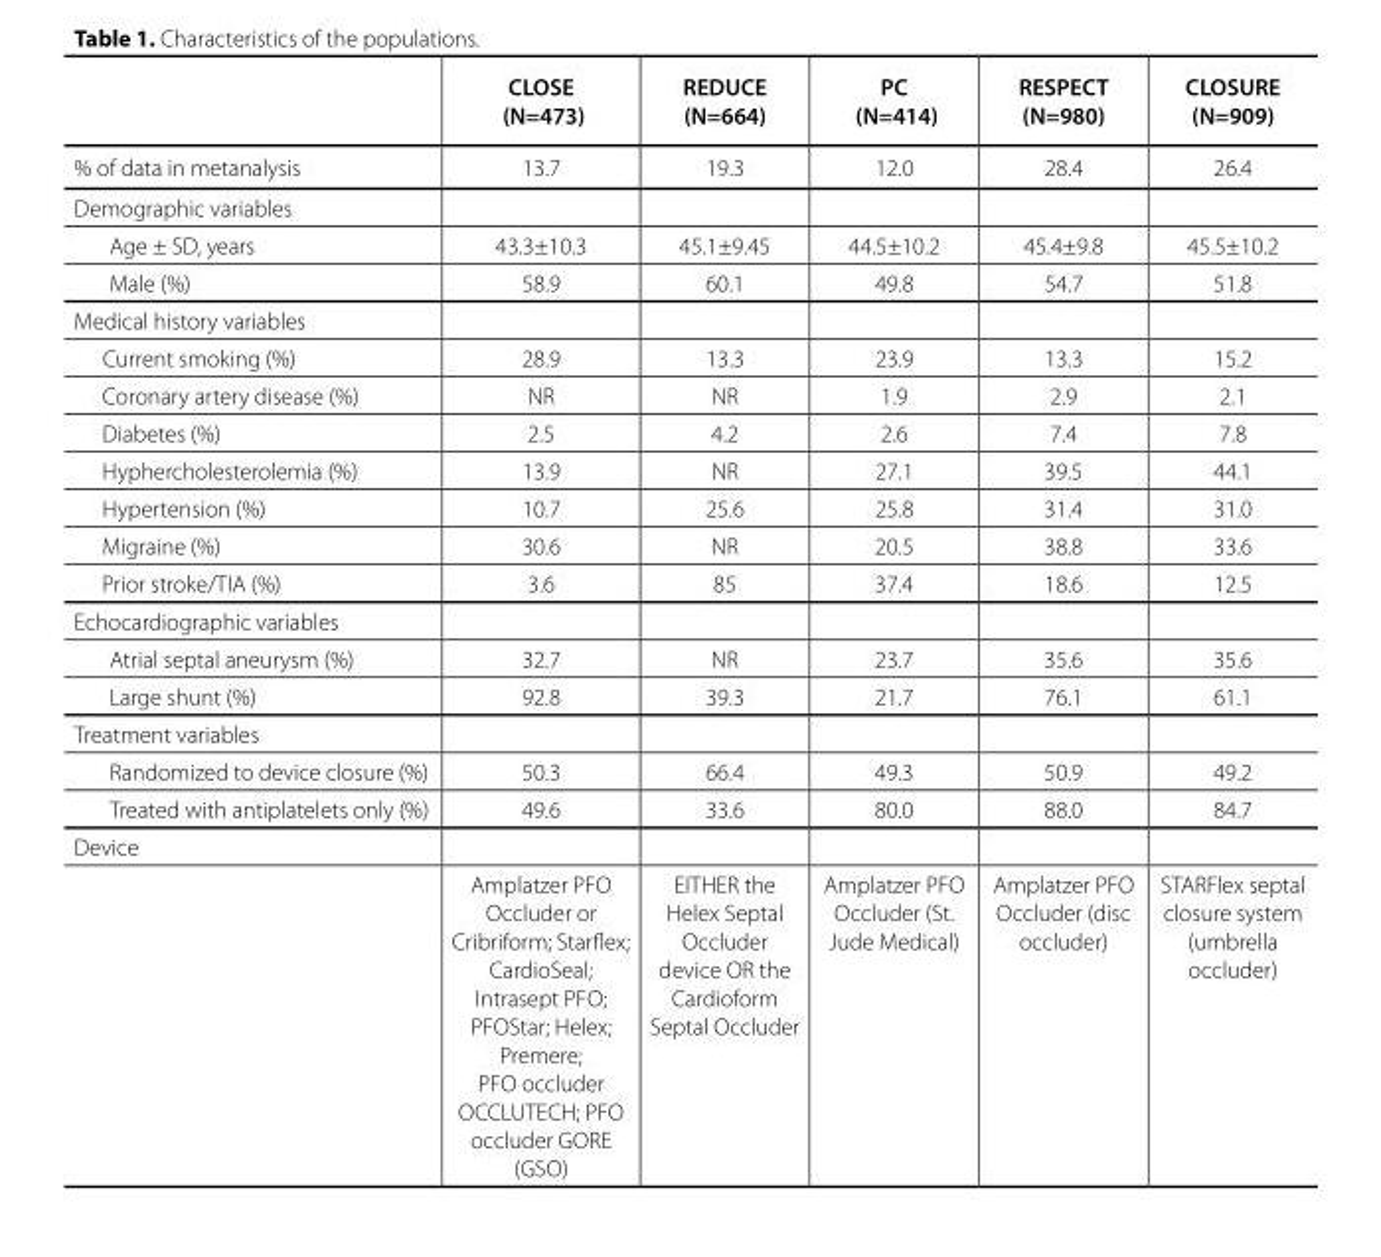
<table><thead><tr><td></td><td>CLOSE (N=473)</td><td>REDUCE (N=664)</td><td>PC (N=414)</td><td>RESPECT (N=980)</td><td>CLOSURE (N=909)</td></tr></thead><tbody><tr><td>% of data in metanalysis</td><td>13.7</td><td>19.3</td><td>12.0</td><td>28.4</td><td>26.4</td></tr><tr><td colspan="6">Demographic variables</td></tr><tr><td>Age ± SD, years</td><td>43.3±10.3</td><td>45.1±9.45</td><td>44.5±10.2</td><td>45.4±9.8</td><td>45.5±10.2</td></tr><tr><td>Male (%)</td><td>58.9</td><td>60.1</td><td>49.8</td><td>54.7</td><td>51.8</td></tr><tr><td colspan="6">Medical history variables</td></tr><tr><td>Current smoking (%)</td><td>28.9</td><td>13.3</td><td>23.9</td><td>13.3</td><td>15.2</td></tr><tr><td>Coronary artery disease (%)</td><td>NR</td><td>NR</td><td>1.9</td><td>2.9</td><td>2.1</td></tr><tr><td>Diabetes (%)</td><td>2.5</td><td>4.2</td><td>2.6</td><td>7.4</td><td>7.8</td></tr><tr><td>Hyphercholesterolemia (%)</td><td>13.9</td><td>NR</td><td>27.1</td><td>39.5</td><td>44.1</td></tr><tr><td>Hypertension (%)</td><td>10.7</td><td>25.6</td><td>25.8</td><td>31.4</td><td>31.0</td></tr><tr><td>Migraine (%)</td><td>30.6</td><td>NR</td><td>20.5</td><td>38.8</td><td>33.6</td></tr><tr><td>Prior stroke/TIA (%)</td><td>3.6</td><td>85</td><td>37.4</td><td>18.6</td><td>12.5</td></tr><tr><td colspan="6">Echocardiographic variables</td></tr><tr><td>Atrial septal aneurysm (%)</td><td>32.7</td><td>NR</td><td>23.7</td><td>35.6</td><td>35.6</td></tr><tr><td>Large shunt (%)</td><td>92.8</td><td>39.3</td><td>21.7</td><td>76.1</td><td>61.1</td></tr><tr><td colspan="6">Treatment variables</td></tr><tr><td>Randomized to device closure (%)</td><td>50.3</td><td>66.4</td><td>49.3</td><td>50.9</td><td>49.2</td></tr><tr><td>Treated with antiplatelets only (%)</td><td>49.6</td><td>33.6</td><td>80.0</td><td>88.0</td><td>84.7</td></tr><tr><td colspan="6">Device</td></tr><tr><td></td><td>Amplatzer PFO Occluder or Cribriform; Starflex; CardioSeal; Intrasept PFO; PFOStar; Helex; Premere; PFO occluder OCCLUTECH; PFO occluder GORE (GSO)</td><td>EITHER the Helex Septal Occluder device OR the Cardioform Septal Occluder</td><td>Amplatzer PFO Occluder (St. Jude Medical)</td><td>Amplatzer PFO Occluder (disc occluder)</td><td>STARFlex septal closure system (umbrella occluder)</td></tr></tbody></table>